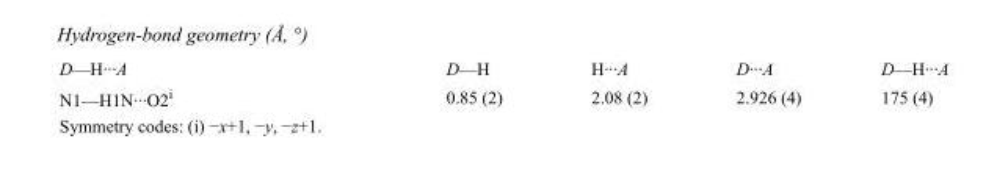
<table><tbody><tr><td>D—H···A</td><td>D—H</td><td>H···A</td><td>D···A</td><td>D—H···A</td></tr><tr><td>N1—H1N···O2<sup>i</sup></td><td>0.85 (2)</td><td>2.08 (2)</td><td>2.926 (4)</td><td>175 (4)</td></tr></tbody></table>